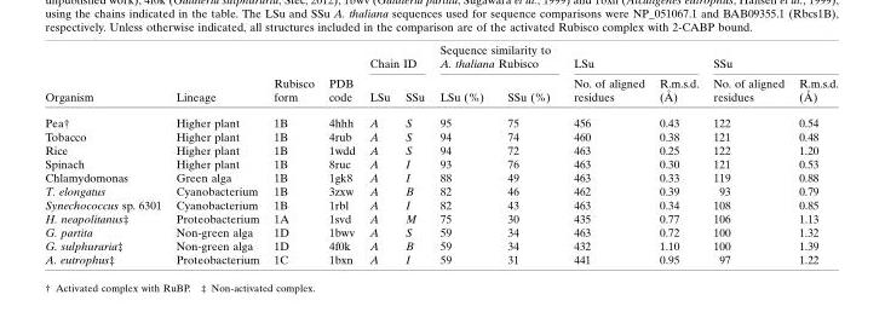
<table><thead><tr><td rowspan="2">Organism</td><td rowspan="2">Lineage</td><td rowspan="2">Rubisco form</td><td rowspan="2">PDB code</td><td colspan="2">Chain ID</td><td colspan="2">Sequence similarity to A. thaliana Rubisco</td><td colspan="2">LSu</td><td colspan="2">SSu</td></tr><tr><td>LSu</td><td>SSu</td><td>LSu (%)</td><td>SSu (%)</td><td>No. of aligned residues</td><td>R.m.s.d. (A˚ )</td><td>No. of aligned residues</td><td>R.m.s.d. (A˚ )</td></tr></thead><tbody><tr><td>Pea†</td><td>Higher plant</td><td>1B</td><td>4hhh</td><td>A</td><td>S</td><td>95</td><td>75</td><td>456</td><td>0.43</td><td>122</td><td>0.54</td></tr><tr><td>Tobacco</td><td>Higher plant</td><td>1B</td><td>4rub</td><td>A</td><td>S</td><td>94</td><td>74</td><td>460</td><td>0.38</td><td>121</td><td>0.48</td></tr><tr><td>Rice</td><td>Higher plant</td><td>1B</td><td>1wdd</td><td>A</td><td>S</td><td>94</td><td>72</td><td>463</td><td>0.25</td><td>122</td><td>1.20</td></tr><tr><td>Spinach</td><td>Higher plant</td><td>1B</td><td>8ruc</td><td>A</td><td>I</td><td>93</td><td>76</td><td>463</td><td>0.30</td><td>121</td><td>0.53</td></tr><tr><td>Chlamydomonas</td><td>Green alga</td><td>1B</td><td>1gk8</td><td>A</td><td>I</td><td>88</td><td>49</td><td>463</td><td>0.33</td><td>119</td><td>0.88</td></tr><tr><td>T. elongatus</td><td>Cyanobacterium</td><td>1B</td><td>3zxw</td><td>A</td><td>B</td><td>82</td><td>46</td><td>462</td><td>0.39</td><td>93</td><td>0.79</td></tr><tr><td>Synechococcus sp. 6301</td><td>Cyanobacterium</td><td>1B</td><td>1rbl</td><td>A</td><td>I</td><td>82</td><td>43</td><td>463</td><td>0.34</td><td>108</td><td>0.85</td></tr><tr><td>H. neapolitanus‡</td><td>Proteobacterium</td><td>1A</td><td>1svd</td><td>A</td><td>M</td><td>75</td><td>30</td><td>435</td><td>0.77</td><td>106</td><td>1.13</td></tr><tr><td>G. partita</td><td>Non-green alga</td><td>1D</td><td>1bwv</td><td>A</td><td>S</td><td>59</td><td>34</td><td>463</td><td>0.72</td><td>100</td><td>1.32</td></tr><tr><td>G. sulphuraria‡</td><td>Non-green alga</td><td>1D</td><td>4f0k</td><td>A</td><td>B</td><td>59</td><td>34</td><td>432</td><td>1.10</td><td>100</td><td>1.39</td></tr><tr><td>A. eutrophus‡</td><td>Proteobacterium</td><td>1C</td><td>1bxn</td><td>A</td><td>I</td><td>59</td><td>31</td><td>441</td><td>0.95</td><td>97</td><td>1.22</td></tr></tbody></table>